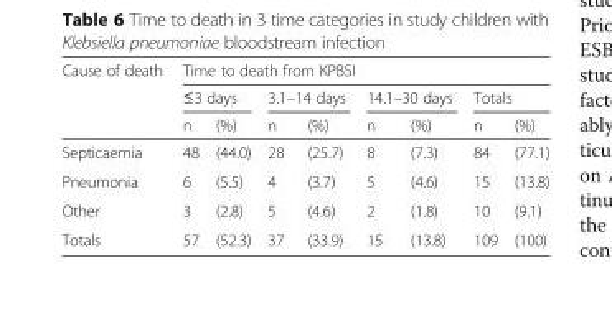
<table><thead><tr><td rowspan="3">Cause of death</td><td colspan="8">Time to death from KPBSI</td></tr><tr><td colspan="2">≤3 days</td><td colspan="2">3.1–14 days</td><td colspan="2">14.1–30 days</td><td colspan="2">Totals</td></tr><tr><td>n</td><td>(%)</td><td>n</td><td>(%)</td><td>n</td><td>(%)</td><td>n</td><td>(%)</td></tr></thead><tbody><tr><td>Septicaemia</td><td>48</td><td>(44.0)</td><td>28</td><td>(25.7)</td><td>8</td><td>(7.3)</td><td>84</td><td>(77.1)</td></tr><tr><td>Pneumonia</td><td>6</td><td>(5.5)</td><td>4</td><td>(3.7)</td><td>5</td><td>(4.6)</td><td>15</td><td>(13.8)</td></tr><tr><td>Other</td><td>3</td><td>(2.8)</td><td>5</td><td>(4.6)</td><td>2</td><td>(1.8)</td><td>10</td><td>(9.1)</td></tr><tr><td>Totals</td><td>57</td><td>(52.3)</td><td>37</td><td>(33.9)</td><td>15</td><td>(13.8)</td><td>109</td><td>(100)</td></tr></tbody></table>